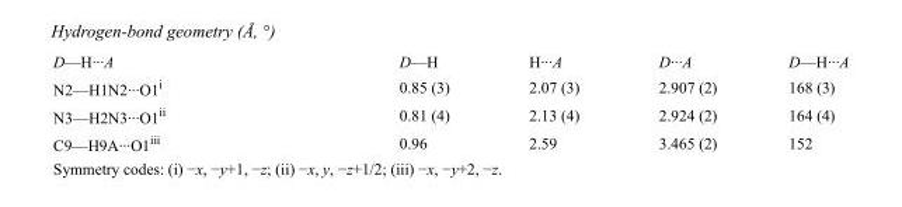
<table><tbody><tr><td>D—H···A</td><td>D—H</td><td>H···A</td><td>D···A</td><td>D—H···A</td></tr><tr><td>N2—H1N2···O1<sup>i</sup></td><td>0.85 (3)</td><td>2.07 (3)</td><td>2.907 (2)</td><td>168 (3)</td></tr><tr><td>N3—H2N3···O1<sup>ii</sup></td><td>0.81 (4)</td><td>2.13 (4)</td><td>2.924 (2)</td><td>164 (4)</td></tr><tr><td>C9—H9A···O1<sup>iii</sup></td><td>0.96</td><td>2.59</td><td>3.465 (2)</td><td>152</td></tr></tbody></table>